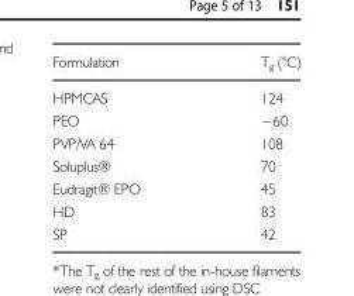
<table><thead><tr><td>Formulation</td><td>T<sub>g</sub> (°C)</td></tr></thead><tbody><tr><td>HPMCAS</td><td>124</td></tr><tr><td>PEO</td><td>−60</td></tr><tr><td>PVP/VA 64</td><td>108</td></tr><tr><td>Soluplus®</td><td>70</td></tr><tr><td>Eudragit® EPO</td><td>45</td></tr><tr><td>HD</td><td>83</td></tr><tr><td>SP</td><td>42</td></tr></tbody></table>